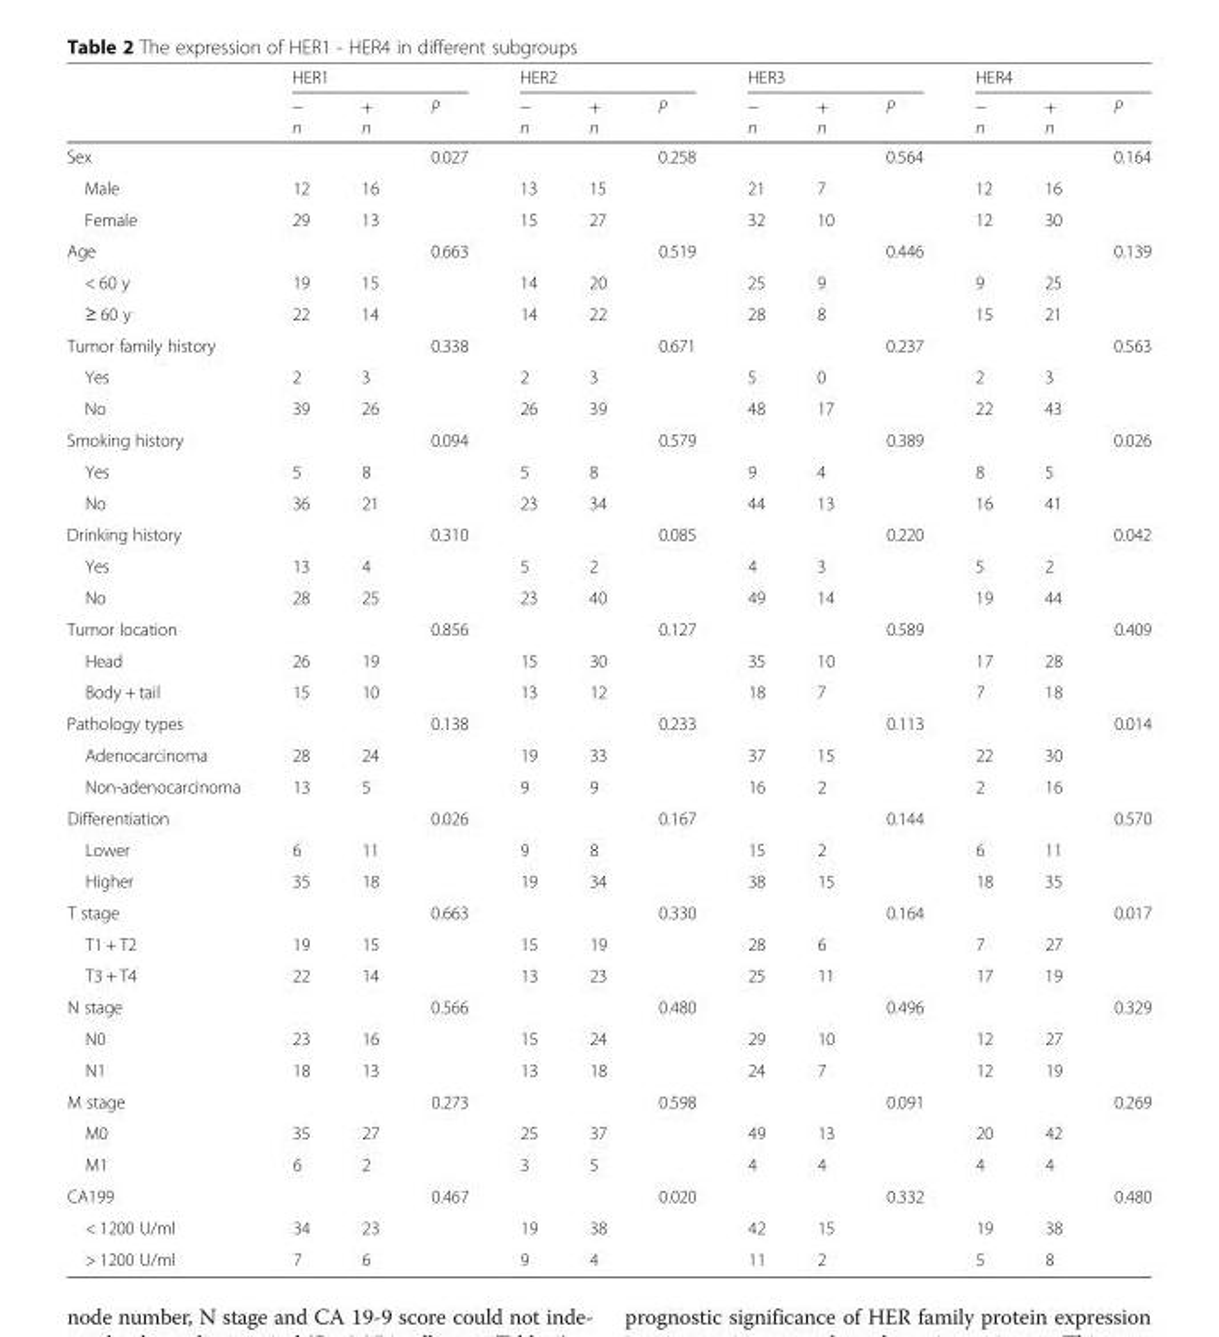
<table><thead><tr><td rowspan="2"></td><td colspan="3">HER1</td><td colspan="3">HER2</td><td colspan="3">HER3</td><td colspan="3">HER4</td></tr><tr><td>− n</td><td>+ n</td><td>P</td><td>− n</td><td>+ n</td><td>P</td><td>− n</td><td>+ n</td><td>P</td><td>− n</td><td>+ n</td><td>P</td></tr></thead><tbody><tr><td>Sex</td><td></td><td></td><td>0.027</td><td></td><td></td><td>0.258</td><td></td><td></td><td>0.564</td><td></td><td></td><td>0.164</td></tr><tr><td>Male</td><td>12</td><td>16</td><td></td><td>13</td><td>15</td><td></td><td>21</td><td>7</td><td></td><td>12</td><td>16</td><td></td></tr><tr><td>Female</td><td>29</td><td>13</td><td></td><td>15</td><td>27</td><td></td><td>32</td><td>10</td><td></td><td>12</td><td>30</td><td></td></tr><tr><td>Age</td><td></td><td></td><td>0.663</td><td></td><td></td><td>0.519</td><td></td><td></td><td>0.446</td><td></td><td></td><td>0.139</td></tr><tr><td>&lt; 60 y</td><td>19</td><td>15</td><td></td><td>14</td><td>20</td><td></td><td>25</td><td>9</td><td></td><td>9</td><td>25</td><td></td></tr><tr><td>≥ 60 y</td><td>22</td><td>14</td><td></td><td>14</td><td>22</td><td></td><td>28</td><td>8</td><td></td><td>15</td><td>21</td><td></td></tr><tr><td>Tumor family history</td><td></td><td></td><td>0.338</td><td></td><td></td><td>0.671</td><td></td><td></td><td>0.237</td><td></td><td></td><td>0.563</td></tr><tr><td>Yes</td><td>2</td><td>3</td><td></td><td>2</td><td>3</td><td></td><td>5</td><td>0</td><td></td><td>2</td><td>3</td><td></td></tr><tr><td>No</td><td>39</td><td>26</td><td></td><td>26</td><td>39</td><td></td><td>48</td><td>17</td><td></td><td>22</td><td>43</td><td></td></tr><tr><td>Smoking history</td><td></td><td></td><td>0.094</td><td></td><td></td><td>0.579</td><td></td><td></td><td>0.389</td><td></td><td></td><td>0.026</td></tr><tr><td>Yes</td><td>5</td><td>8</td><td></td><td>5</td><td>8</td><td></td><td>9</td><td>4</td><td></td><td>8</td><td>5</td><td></td></tr><tr><td>No</td><td>36</td><td>21</td><td></td><td>23</td><td>34</td><td></td><td>44</td><td>13</td><td></td><td>16</td><td>41</td><td></td></tr><tr><td>Drinking history</td><td></td><td></td><td>0.310</td><td></td><td></td><td>0.085</td><td></td><td></td><td>0.220</td><td></td><td></td><td>0.042</td></tr><tr><td>Yes</td><td>13</td><td>4</td><td></td><td>5</td><td>2</td><td></td><td>4</td><td>3</td><td></td><td>5</td><td>2</td><td></td></tr><tr><td>No</td><td>28</td><td>25</td><td></td><td>23</td><td>40</td><td></td><td>49</td><td>14</td><td></td><td>19</td><td>44</td><td></td></tr><tr><td>Tumor location</td><td></td><td></td><td>0.856</td><td></td><td></td><td>0.127</td><td></td><td></td><td>0.589</td><td></td><td></td><td>0.409</td></tr><tr><td>Head</td><td>26</td><td>19</td><td></td><td>15</td><td>30</td><td></td><td>35</td><td>10</td><td></td><td>17</td><td>28</td><td></td></tr><tr><td>Body + tail</td><td>15</td><td>10</td><td></td><td>13</td><td>12</td><td></td><td>18</td><td>7</td><td></td><td>7</td><td>18</td><td></td></tr><tr><td>Pathology types</td><td></td><td></td><td>0.138</td><td></td><td></td><td>0.233</td><td></td><td></td><td>0.113</td><td></td><td></td><td>0.014</td></tr><tr><td>Adenocarcinoma</td><td>28</td><td>24</td><td></td><td>19</td><td>33</td><td></td><td>37</td><td>15</td><td></td><td>22</td><td>30</td><td></td></tr><tr><td>Non-adenocarcinoma</td><td>13</td><td>5</td><td></td><td>9</td><td>9</td><td></td><td>16</td><td>2</td><td></td><td>2</td><td>16</td><td></td></tr><tr><td>Differentiation</td><td></td><td></td><td>0.026</td><td></td><td></td><td>0.167</td><td></td><td></td><td>0.144</td><td></td><td></td><td>0.570</td></tr><tr><td>Lower</td><td>6</td><td>11</td><td></td><td>9</td><td>8</td><td></td><td>15</td><td>2</td><td></td><td>6</td><td>11</td><td></td></tr><tr><td>Higher</td><td>35</td><td>18</td><td></td><td>19</td><td>34</td><td></td><td>38</td><td>15</td><td></td><td>18</td><td>35</td><td></td></tr><tr><td>T stage</td><td></td><td></td><td>0.663</td><td></td><td></td><td>0.330</td><td></td><td></td><td>0.164</td><td></td><td></td><td>0.017</td></tr><tr><td>T1 + T2</td><td>19</td><td>15</td><td></td><td>15</td><td>19</td><td></td><td>28</td><td>6</td><td></td><td>7</td><td>27</td><td></td></tr><tr><td>T3 + T4</td><td>22</td><td>14</td><td></td><td>13</td><td>23</td><td></td><td>25</td><td>11</td><td></td><td>17</td><td>19</td><td></td></tr><tr><td>N stage</td><td></td><td></td><td>0.566</td><td></td><td></td><td>0.480</td><td></td><td></td><td>0.496</td><td></td><td></td><td>0.329</td></tr><tr><td>N0</td><td>23</td><td>16</td><td></td><td>15</td><td>24</td><td></td><td>29</td><td>10</td><td></td><td>12</td><td>27</td><td></td></tr><tr><td>N1</td><td>18</td><td>13</td><td></td><td>13</td><td>18</td><td></td><td>24</td><td>7</td><td></td><td>12</td><td>19</td><td></td></tr><tr><td>M stage</td><td></td><td></td><td>0.273</td><td></td><td></td><td>0.598</td><td></td><td></td><td>0.091</td><td></td><td></td><td>0.269</td></tr><tr><td>M0</td><td>35</td><td>27</td><td></td><td>25</td><td>37</td><td></td><td>49</td><td>13</td><td></td><td>20</td><td>42</td><td></td></tr><tr><td>M1</td><td>6</td><td>2</td><td></td><td>3</td><td>5</td><td></td><td>4</td><td>4</td><td></td><td>4</td><td>4</td><td></td></tr><tr><td>CA199</td><td></td><td></td><td>0.467</td><td></td><td></td><td>0.020</td><td></td><td></td><td>0.332</td><td></td><td></td><td>0.480</td></tr><tr><td>&lt; 1200 U/ml</td><td>34</td><td>23</td><td></td><td>19</td><td>38</td><td></td><td>42</td><td>15</td><td></td><td>19</td><td>38</td><td></td></tr><tr><td>&gt; 1200 U/ml</td><td>7</td><td>6</td><td></td><td>9</td><td>4</td><td></td><td>11</td><td>2</td><td></td><td>5</td><td>8</td><td></td></tr></tbody></table>